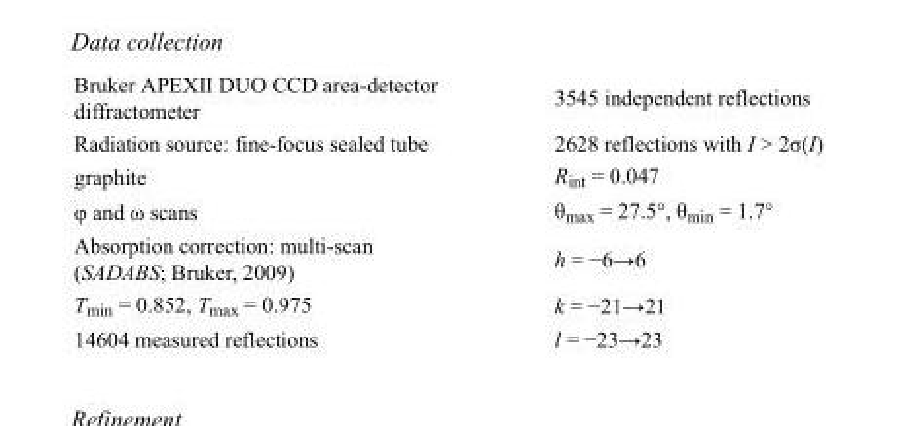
<table><tbody><tr><td>Bruker APEXII DUO CCD area-detector diffractometer</td><td>3545 independent reflections</td></tr><tr><td>Radiation source: fine-focus sealed tube</td><td>2628 reflections with I &gt; 2σ(I)</td></tr><tr><td>graphite</td><td>R<sub>int</sub> = 0.047</td></tr><tr><td>φ and ω scans</td><td>θ<sub>max</sub> = 27.5°, θ<sub>min</sub> = 1.7°</td></tr><tr><td>Absorption correction: multi-scan (SADABS; Bruker, 2009)</td><td>h = −6→6</td></tr><tr><td>T<sub>min</sub> = 0.852, T<sub>max</sub> = 0.975</td><td>k = −21→21</td></tr><tr><td>14604 measured reflections</td><td>l = −23→23</td></tr></tbody></table>